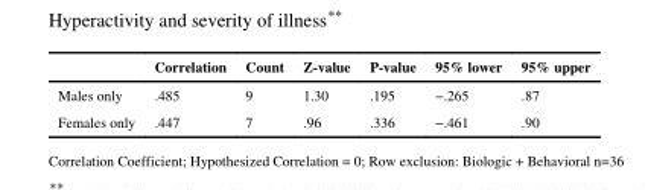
<table><thead><tr><td></td><td>Correlation</td><td>Count</td><td>Z-value</td><td>P-value</td><td>95% lower</td><td>95% upper</td></tr></thead><tbody><tr><td>Males only</td><td>.485</td><td>9</td><td>1.30</td><td>.195</td><td>−.265</td><td>.87</td></tr><tr><td>Females only</td><td>.447</td><td>7</td><td>.96</td><td>.336</td><td>−.461</td><td>.90</td></tr></tbody></table>